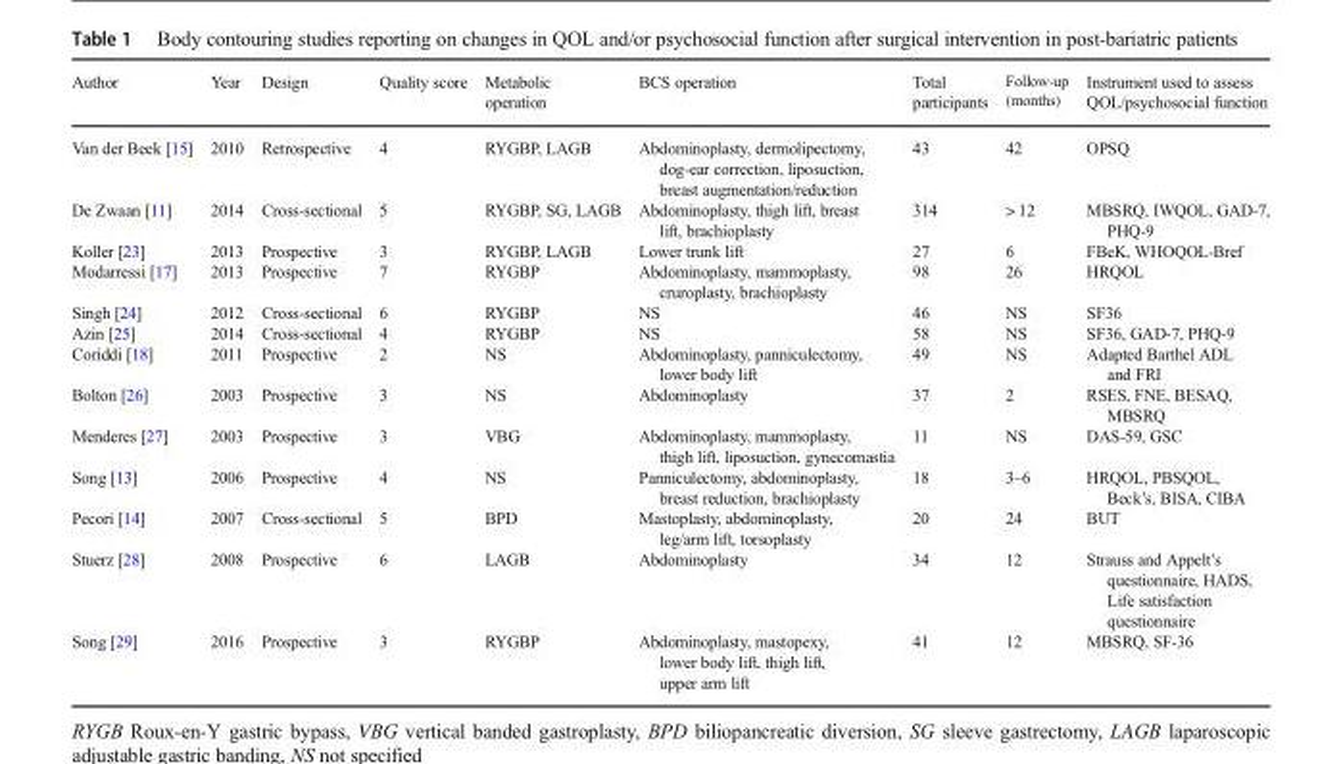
<table><thead><tr><td>Author</td><td>Year</td><td>Design</td><td>Quality score</td><td>Metabolic operation</td><td>BCS operation</td><td>Total participants</td><td>Follow-up (months)</td><td>Instrument used to assess QOL/psychosocial function</td></tr></thead><tbody><tr><td>Van der Beek [15]</td><td>2010</td><td>Retrospective</td><td>4</td><td>RYGBP, LAGB</td><td>Abdominoplasty, dermolipectomy, dog-ear correction, liposuction, breast augmentation/reduction</td><td>43</td><td>42</td><td>OPSQ</td></tr><tr><td>De Zwaan [11]</td><td>2014</td><td>Cross-sectional</td><td>5</td><td>RYGBP, SG, LAGB</td><td>Abdominoplasty, thigh lift, breast lift, brachioplasty</td><td>314</td><td>&gt; 12</td><td>MBSRQ, IWQOL, GAD-7, PHQ-9</td></tr><tr><td>Koller [23]</td><td>2013</td><td>Prospective</td><td>3</td><td>RYGBP, LAGB</td><td>Lower trunk lift</td><td>27</td><td>6</td><td>FBeK, WHOQOL-Bref</td></tr><tr><td>Modarressi [17]</td><td>2013</td><td>Prospective</td><td>7</td><td>RYGBP</td><td>Abdominoplasty, mammoplasty, cruroplasty, brachioplasty</td><td>98</td><td>26</td><td>HRQOL</td></tr><tr><td>Singh [24]</td><td>2012</td><td>Cross-sectional</td><td>6</td><td>RYGBP</td><td>NS</td><td>46</td><td>NS</td><td>SF36</td></tr><tr><td>Azin [25]</td><td>2014</td><td>Cross-sectional</td><td>4</td><td>RYGBP</td><td>NS</td><td>58</td><td>NS</td><td>SF36, GAD-7, PHQ-9</td></tr><tr><td>Coriddi [18]</td><td>2011</td><td>Prospective</td><td>2</td><td>NS</td><td>Abdominoplasty, panniculectomy, lower body lift</td><td>49</td><td>NS</td><td>Adapted Barthel ADL and FRI</td></tr><tr><td>Bolton [26]</td><td>2003</td><td>Prospective</td><td>3</td><td>NS</td><td>Abdominoplasty</td><td>37</td><td>2</td><td>RSES, FNE, BESAQ, MBSRQ</td></tr><tr><td>Menderes [27]</td><td>2003</td><td>Prospective</td><td>3</td><td>VBG</td><td>Abdominoplasty, mammoplasty, thigh lift, liposuction, gynecomastia</td><td>11</td><td>NS</td><td>DAS-59, GSC</td></tr><tr><td>Song [13]</td><td>2006</td><td>Prospective</td><td>4</td><td>NS</td><td>Panniculectomy, abdominoplasty, breast reduction, brachioplasty</td><td>18</td><td>3–6</td><td>HRQOL, PBSQOL, Beck’s, BISA, CIBA</td></tr><tr><td>Pecori [14]</td><td>2007</td><td>Cross-sectional</td><td>5</td><td>BPD</td><td>Mastoplasty, abdominoplasty, leg/arm lift, torsoplasty</td><td>20</td><td>24</td><td>BUT</td></tr><tr><td>Stuerz [28]</td><td>2008</td><td>Prospective</td><td>6</td><td>LAGB</td><td>Abdominoplasty</td><td>34</td><td>12</td><td>Strauss and Appelt’s questionnaire, HADS, Life satisfaction questionnaire</td></tr><tr><td>Song [29]</td><td>2016</td><td>Prospective</td><td>3</td><td>RYGBP</td><td>Abdominoplasty, mastopexy, lower body lift, thigh lift, upper arm lift</td><td>41</td><td>12</td><td>MBSRQ, SF-36</td></tr></tbody></table>